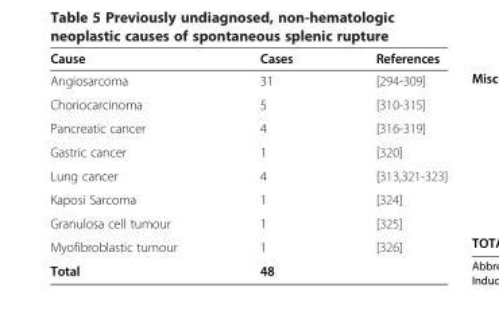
<table><thead><tr><td>Cause</td><td>Cases</td><td>References</td></tr></thead><tbody><tr><td>Angiosarcoma</td><td>31</td><td>[294-309]</td></tr><tr><td>Choriocarcinoma</td><td>5</td><td>[310-315]</td></tr><tr><td>Pancreatic cancer</td><td>4</td><td>[316-319]</td></tr><tr><td>Gastric cancer</td><td>1</td><td>[320]</td></tr><tr><td>Lung cancer</td><td>4</td><td>[313,321-323]</td></tr><tr><td>Kaposi Sarcoma</td><td>1</td><td>[324]</td></tr><tr><td>Granulosa cell tumour</td><td>1</td><td>[325]</td></tr><tr><td>Myofibroblastic tumour</td><td>1</td><td>[326]</td></tr><tr><td>Total</td><td>48</td><td></td></tr></tbody></table>